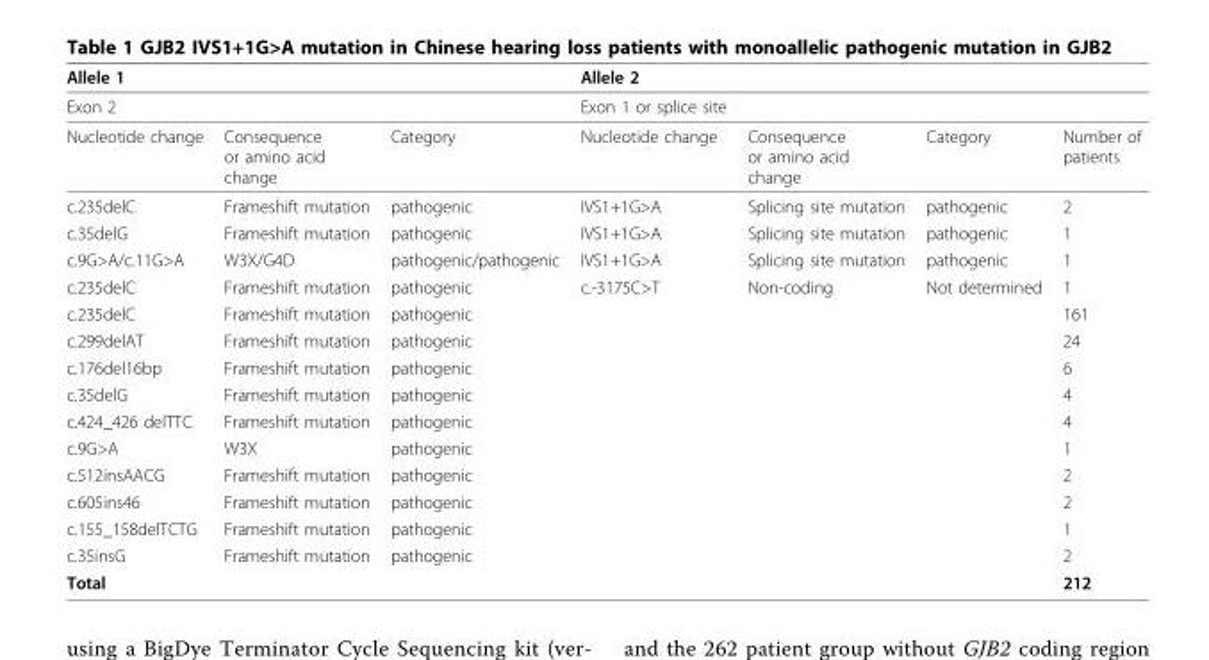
<table><thead><tr><td>Allele 1</td><td></td><td></td><td>Allele 2</td><td></td><td></td><td></td></tr></thead><tbody><tr><td>Exon 2</td><td></td><td></td><td>Exon 1 or splice site</td><td></td><td></td><td></td></tr><tr><td>Nucleotide change</td><td>Consequence or amino acid change</td><td>Category</td><td>Nucleotide change</td><td>Consequence or amino acid change</td><td>Category</td><td>Number of patients</td></tr><tr><td>c.235delC</td><td>Frameshift mutation</td><td>pathogenic</td><td>IVS1+1G&gt;A</td><td>Splicing site mutation</td><td>pathogenic</td><td>2</td></tr><tr><td>c.35delG</td><td>Frameshift mutation</td><td>pathogenic</td><td>IVS1+1G&gt;A</td><td>Splicing site mutation</td><td>pathogenic</td><td>1</td></tr><tr><td>c.9G&gt;A/c.11G&gt;A</td><td>W3X/G4D</td><td>pathogenic/pathogenic</td><td>IVS1+1G&gt;A</td><td>Splicing site mutation</td><td>pathogenic</td><td>1</td></tr><tr><td>c.235delC</td><td>Frameshift mutation</td><td>pathogenic</td><td>c.-3175C&gt;T</td><td>Non-coding</td><td>Not determined</td><td>1</td></tr><tr><td>c.235delC</td><td>Frameshift mutation</td><td>pathogenic</td><td></td><td></td><td></td><td>161</td></tr><tr><td>c.299delAT</td><td>Frameshift mutation</td><td>pathogenic</td><td></td><td></td><td></td><td>24</td></tr><tr><td>c.176del16bp</td><td>Frameshift mutation</td><td>pathogenic</td><td></td><td></td><td></td><td>6</td></tr><tr><td>c.35delG</td><td>Frameshift mutation</td><td>pathogenic</td><td></td><td></td><td></td><td>4</td></tr><tr><td>c.424_426 delTTC</td><td>Frameshift mutation</td><td>pathogenic</td><td></td><td></td><td></td><td>4</td></tr><tr><td>c.9G&gt;A</td><td>W3X</td><td>pathogenic</td><td></td><td></td><td></td><td>1</td></tr><tr><td>c.512insAACG</td><td>Frameshift mutation</td><td>pathogenic</td><td></td><td></td><td></td><td>2</td></tr><tr><td>c.605ins46</td><td>Frameshift mutation</td><td>pathogenic</td><td></td><td></td><td></td><td>2</td></tr><tr><td>c.155_158delTCTG</td><td>Frameshift mutation</td><td>pathogenic</td><td></td><td></td><td></td><td>1</td></tr><tr><td>c.35insG</td><td>Frameshift mutation</td><td>pathogenic</td><td></td><td></td><td></td><td>2</td></tr><tr><td>Total</td><td></td><td></td><td></td><td></td><td></td><td>212</td></tr></tbody></table>